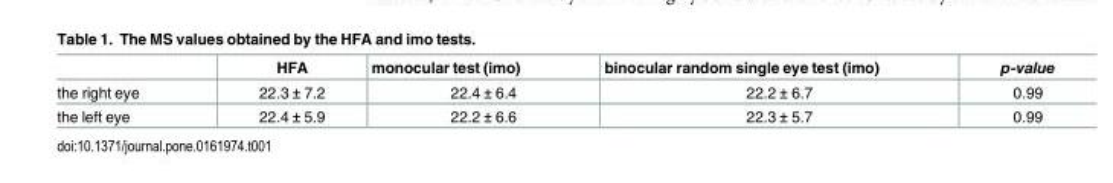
<table><thead><tr><td></td><td>HFA</td><td>monocular test (imo)</td><td>binocular random single eye test (imo)</td><td>p-value</td></tr></thead><tbody><tr><td>the right eye</td><td>22.3 ± 7.2</td><td>22.4 ± 6.4</td><td>22.2 ± 6.7</td><td>0.99</td></tr><tr><td>the left eye</td><td>22.4 ± 5.9</td><td>22.2 ± 6.6</td><td>22.3 ± 5.7</td><td>0.99</td></tr></tbody></table>